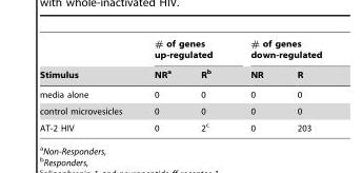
<table><thead><tr><td rowspan="2">Stimulus</td><td colspan="2"># of genes up-regulated</td><td colspan="2"># of genes down-regulated</td></tr><tr><td>NR<sup>a</sup></td><td>R<sup>b</sup></td><td>NR</td><td>R</td></tr></thead><tbody><tr><td>media alone</td><td>0</td><td>0</td><td>0</td><td>0</td></tr><tr><td>control microvesicles</td><td>0</td><td>0</td><td>0</td><td>0</td></tr><tr><td>AT-2 HIV</td><td>0</td><td>2<sup>c</sup></td><td>0</td><td>203</td></tr></tbody></table>